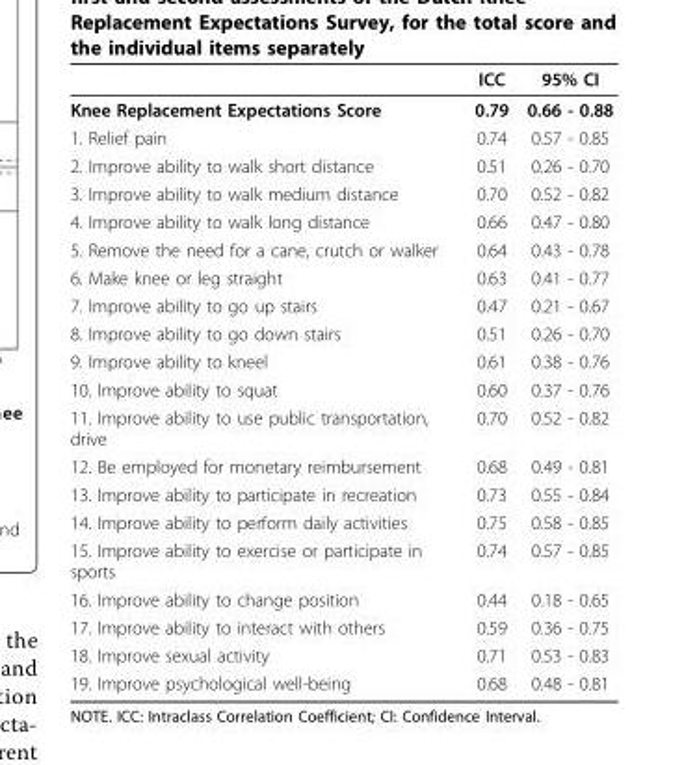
<table><thead><tr><td></td><td>ICC</td><td>95% CI</td></tr></thead><tbody><tr><td>Knee Replacement Expectations Score</td><td>0.79</td><td>0.66 - 0.88</td></tr><tr><td>1. Relief pain</td><td>0.74</td><td>0.57 - 0.85</td></tr><tr><td>2. Improve ability to walk short distance</td><td>0.51</td><td>0.26 - 0.70</td></tr><tr><td>3. Improve ability to walk medium distance</td><td>0.70</td><td>0.52 - 0.82</td></tr><tr><td>4. Improve ability to walk long distance</td><td>0.66</td><td>0.47 - 0.80</td></tr><tr><td>5. Remove the need for a cane, crutch or walker</td><td>0.64</td><td>0.43 - 0.78</td></tr><tr><td>6. Make knee or leg straight</td><td>0.63</td><td>0.41 - 0.77</td></tr><tr><td>7. Improve ability to go up stairs</td><td>0.47</td><td>0.21 - 0.67</td></tr><tr><td>8. Improve ability to go down stairs</td><td>0.51</td><td>0.26 - 0.70</td></tr><tr><td>9. Improve ability to kneel</td><td>0.61</td><td>0.38 - 0.76</td></tr><tr><td>10. Improve ability to squat</td><td>0.60</td><td>0.37 - 0.76</td></tr><tr><td>11. Improve ability to use public transportation, drive</td><td>0.70</td><td>0.52 - 0.82</td></tr><tr><td>12. Be employed for monetary reimbursement</td><td>0.68</td><td>0.49 - 0.81</td></tr><tr><td>13. Improve ability to participate in recreation</td><td>0.73</td><td>0.55 - 0.84</td></tr><tr><td>14. Improve ability to perform daily activities</td><td>0.75</td><td>0.58 - 0.85</td></tr><tr><td>15. Improve ability to exercise or participate in sports</td><td>0.74</td><td>0.57 - 0.85</td></tr><tr><td>16. Improve ability to change position</td><td>0.44</td><td>0.18 - 0.65</td></tr><tr><td>17. Improve ability to interact with others</td><td>0.59</td><td>0.36 - 0.75</td></tr><tr><td>18. Improve sexual activity</td><td>0.71</td><td>0.53 - 0.83</td></tr><tr><td>19. Improve psychological well-being</td><td>0.68</td><td>0.48 - 0.81</td></tr></tbody></table>